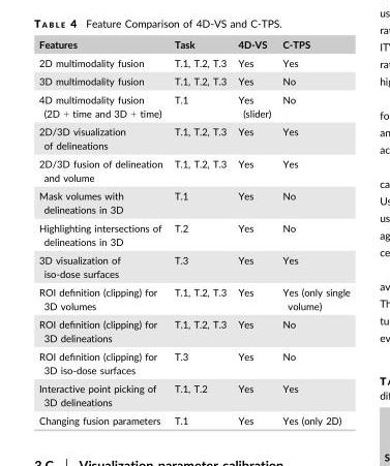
<table><thead><tr><td>Features</td><td>Task</td><td>4D-VS</td><td>C-TPS</td></tr></thead><tbody><tr><td>2D multimodality fusion</td><td>T.1, T.2, T.3</td><td>Yes</td><td>Yes</td></tr><tr><td>3D multimodality fusion</td><td>T.1, T.2, T.3</td><td>Yes</td><td>No</td></tr><tr><td>4D multimodality fusion (2D + time and 3D + time)</td><td>T.1</td><td>Yes (slider)</td><td>No</td></tr><tr><td>2D/3D visualization of delineations</td><td>T.1, T.2, T.3</td><td>Yes</td><td>Yes</td></tr><tr><td>2D/3D fusion of delineation and volume</td><td>T.1, T.2, T.3</td><td>Yes</td><td>Yes</td></tr><tr><td>Mask volumes with delineations in 3D</td><td>T.1</td><td>Yes</td><td>No</td></tr><tr><td>Highlighting intersections of delineations in 3D</td><td>T.2</td><td>Yes</td><td>No</td></tr><tr><td>3D visualization of iso-dose surfaces</td><td>T.3</td><td>Yes</td><td>Yes</td></tr><tr><td>ROI definition (clipping) for 3D volumes</td><td>T.1, T.2, T.3</td><td>Yes</td><td>Yes (only single volume)</td></tr><tr><td>ROI definition (clipping) for 3D delineations</td><td>T.1, T.2, T.3</td><td>Yes</td><td>No</td></tr><tr><td>ROI definition (clipping) for 3D iso-dose surfaces</td><td>T.3</td><td>Yes</td><td>No</td></tr><tr><td>Interactive point picking of 3D delineations</td><td>T.1, T.2</td><td>Yes</td><td>Yes</td></tr><tr><td>Changing fusion parameters</td><td>T.1</td><td>Yes</td><td>Yes (only 2D)</td></tr></tbody></table>